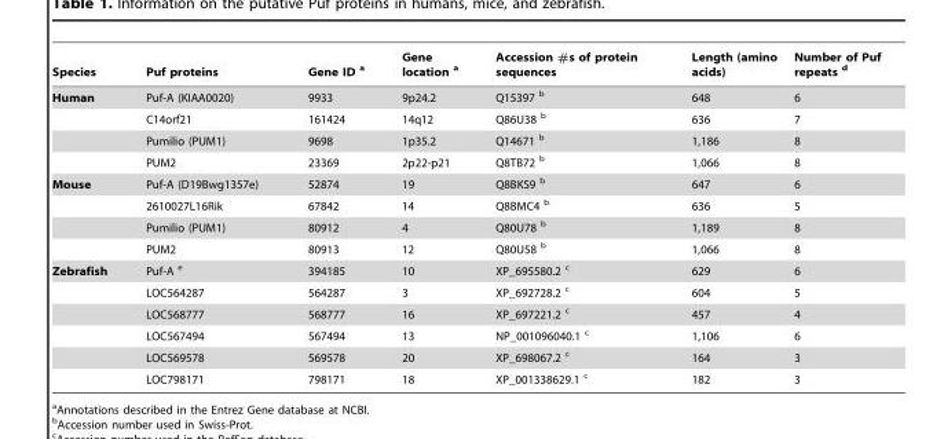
<table><thead><tr><td>Species</td><td>Puf proteins</td><td>Gene ID a</td><td>Gene location a</td><td>Accession #s of protein sequences</td><td>Length (amino acids)</td><td>Number of Puf repeats d</td></tr></thead><tbody><tr><td rowspan="4">Human</td><td>Puf-A (KIAA0020)</td><td>9933</td><td>9p24.2</td><td>Q15397 b</td><td>648</td><td>6</td></tr><tr><td>C14orf21</td><td>161424</td><td>14q12</td><td>Q86U38 b</td><td>636</td><td>7</td></tr><tr><td>Pumilio (PUM1)</td><td>9698</td><td>1p35.2</td><td>Q14671 b</td><td>1,186</td><td>8</td></tr><tr><td>PUM2</td><td>23369</td><td>2p22-p21</td><td>Q8TB72 b</td><td>1,066</td><td>8</td></tr><tr><td rowspan="4">Mouse</td><td>Puf-A (D19Bwg1357e)</td><td>52874</td><td>19</td><td>Q8BKS9 b</td><td>647</td><td>6</td></tr><tr><td>2610027L16Rik</td><td>67842</td><td>14</td><td>Q8BMC4 b</td><td>636</td><td>5</td></tr><tr><td>Pumilio (PUM1)</td><td>80912</td><td>4</td><td>Q80U78 b</td><td>1,189</td><td>8</td></tr><tr><td>PUM2</td><td>80913</td><td>12</td><td>Q80U58 b</td><td>1,066</td><td>8</td></tr><tr><td rowspan="6">Zebrafish</td><td>Puf-A e</td><td>394185</td><td>10</td><td>XP_695580.2 c</td><td>629</td><td>6</td></tr><tr><td>LOC564287</td><td>564287</td><td>3</td><td>XP_692728.2 c</td><td>604</td><td>5</td></tr><tr><td>LOC568777</td><td>568777</td><td>16</td><td>XP_697221.2 c</td><td>457</td><td>4</td></tr><tr><td>LOC567494</td><td>567494</td><td>13</td><td>NP_001096040.1 c</td><td>1,106</td><td>6</td></tr><tr><td>LOC569578</td><td>569578</td><td>20</td><td>XP_698067.2 c</td><td>164</td><td>3</td></tr><tr><td>LOC798171</td><td>798171</td><td>18</td><td>XP_001338629.1 c</td><td>182</td><td>3</td></tr></tbody></table>